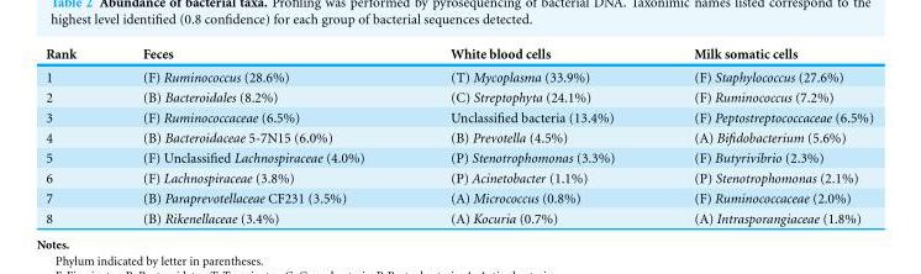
<table><thead><tr><td>Rank</td><td>Feces</td><td>White blood cells</td><td>Milk somatic cells</td></tr></thead><tbody><tr><td>1</td><td>(F) Ruminococcus (28.6%)</td><td>(T) Mycoplasma (33.9%)</td><td>(F) Staphylococcus (27.6%)</td></tr><tr><td>2</td><td>(B) Bacteroidales (8.2%)</td><td>(C) Streptophyta (24.1%)</td><td>(F) Ruminococcus (7.2%)</td></tr><tr><td>3</td><td>(F) Ruminococcaceae (6.5%)</td><td>Unclassified bacteria (13.4%)</td><td>(F) Peptostreptococcaceae (6.5%)</td></tr><tr><td>4</td><td>(B) Bacteroidaceae 5-7N15 (6.0%)</td><td>(B) Prevotella (4.5%)</td><td>(A) Bifidobacterium (5.6%)</td></tr><tr><td>5</td><td>(F) Unclassified Lachnospiraceae (4.0%)</td><td>(P) Stenotrophomonas (3.3%)</td><td>(F) Butyrivibrio (2.3%)</td></tr><tr><td>6</td><td>(F) Lachnospiraceae (3.8%)</td><td>(P) Acinetobacter (1.1%)</td><td>(P) Stenotrophomonas (2.1%)</td></tr><tr><td>7</td><td>(B) Paraprevotellaceae CF231 (3.5%)</td><td>(A) Micrococcus (0.8%)</td><td>(F) Ruminococcaceae (2.0%)</td></tr><tr><td>8</td><td>(B) Rikenellaceae (3.4%)</td><td>(A) Kocuria (0.7%)</td><td>(A) Intrasporangiaceae (1.8%)</td></tr></tbody></table>